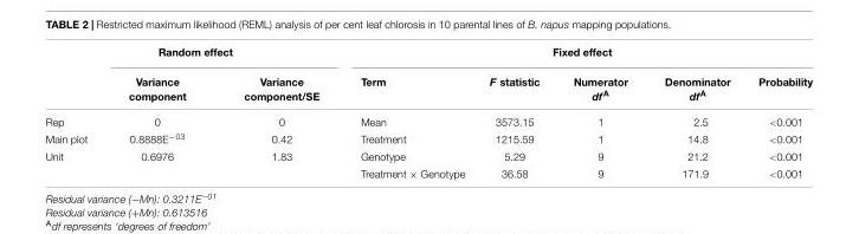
<table><thead><tr><td colspan="3">Random effect</td><td colspan="5">Fixed effect</td></tr><tr><td></td><td>Variance component</td><td>Variance component/SE</td><td>Term</td><td>F statistic</td><td>Numerator df<sup>A</sup></td><td>Denominator df<sup>A</sup></td><td>Probability</td></tr></thead><tbody><tr><td>Rep</td><td>0</td><td>0</td><td>Mean</td><td>3573.15</td><td>1</td><td>2.5</td><td>&lt;0.001</td></tr><tr><td>Main plot</td><td>0.8888E<sup>−03</sup></td><td>0.42</td><td>Treatment</td><td>1215.59</td><td>1</td><td>14.8</td><td>&lt;0.001</td></tr><tr><td rowspan="2">Unit</td><td>0.6976</td><td>1.83</td><td>Genotype</td><td>5.29</td><td>9</td><td>21.2</td><td>&lt;0.001</td></tr><tr><td></td><td></td><td>Treatment × Genotype</td><td>36.58</td><td>9</td><td>171.9</td><td>&lt;0.001</td></tr></tbody></table>